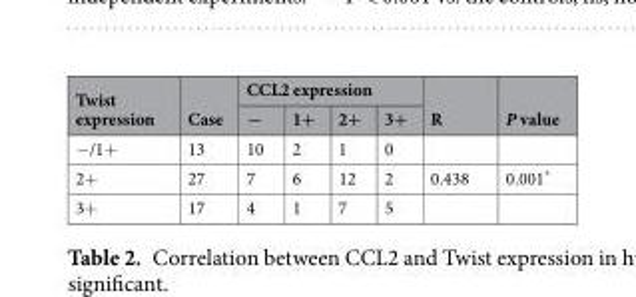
<table><thead><tr><td rowspan="2">Twist expression</td><td rowspan="2">Case</td><td colspan="4">CCL2 expression</td><td rowspan="2">R</td><td rowspan="2">P value</td></tr><tr><td>−</td><td>1+</td><td>2+</td><td>3+</td></tr></thead><tbody><tr><td>−/1+</td><td>13</td><td>10</td><td>2</td><td>1</td><td>0</td><td></td><td></td></tr><tr><td>2+</td><td>27</td><td>7</td><td>6</td><td>12</td><td>2</td><td>0.438</td><td>0.001*</td></tr><tr><td>3+</td><td>17</td><td>4</td><td>1</td><td>7</td><td>5</td><td></td><td></td></tr></tbody></table>